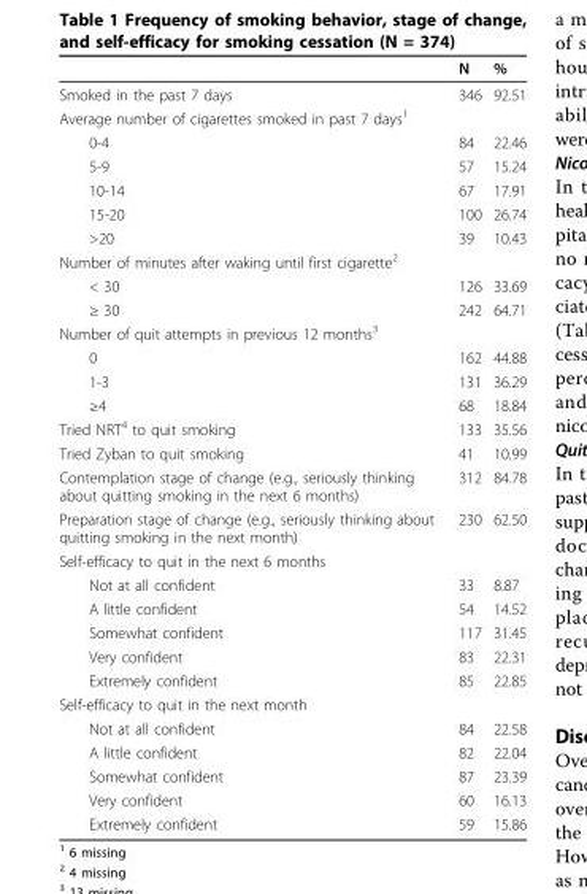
<table><thead><tr><td></td><td>N</td><td>%</td></tr></thead><tbody><tr><td>Smoked in the past 7 days</td><td>346</td><td>92.51</td></tr><tr><td colspan="3">Average number of cigarettes smoked in past 7 days<sup>1</sup></td></tr><tr><td>0-4</td><td>84</td><td>22.46</td></tr><tr><td>5-9</td><td>57</td><td>15.24</td></tr><tr><td>10-14</td><td>67</td><td>17.91</td></tr><tr><td>15-20</td><td>100</td><td>26.74</td></tr><tr><td>&gt;20</td><td>39</td><td>10.43</td></tr><tr><td colspan="3">Number of minutes after waking until first cigarette<sup>2</sup></td></tr><tr><td>&lt; 30</td><td>126</td><td>33.69</td></tr><tr><td>≥ 30</td><td>242</td><td>64.71</td></tr><tr><td colspan="3">Number of quit attempts in previous 12 months<sup>3</sup></td></tr><tr><td>0</td><td>162</td><td>44.88</td></tr><tr><td>1-3</td><td>131</td><td>36.29</td></tr><tr><td>≥4</td><td>68</td><td>18.84</td></tr><tr><td>Tried NRT<sup>4</sup> to quit smoking</td><td>133</td><td>35.56</td></tr><tr><td>Tried Zyban to quit smoking</td><td>41</td><td>10.99</td></tr><tr><td>Contemplation stage of change (e.g., seriously thinking about quitting smoking in the next 6 months)</td><td>312</td><td>84.78</td></tr><tr><td>Preparation stage of change (e.g., seriously thinking about quitting smoking in the next month)</td><td>230</td><td>62.50</td></tr><tr><td colspan="3">Self-efficacy to quit in the next 6 months</td></tr><tr><td>Not at all confident</td><td>33</td><td>8.87</td></tr><tr><td>A little confident</td><td>54</td><td>14.52</td></tr><tr><td>Somewhat confident</td><td>117</td><td>31.45</td></tr><tr><td>Very confident</td><td>83</td><td>22.31</td></tr><tr><td>Extremely confident</td><td>85</td><td>22.85</td></tr><tr><td colspan="3">Self-efficacy to quit in the next month</td></tr><tr><td>Not at all confident</td><td>84</td><td>22.58</td></tr><tr><td>A little confident</td><td>82</td><td>22.04</td></tr><tr><td>Somewhat confident</td><td>87</td><td>23.39</td></tr><tr><td>Very confident</td><td>60</td><td>16.13</td></tr><tr><td>Extremely confident</td><td>59</td><td>15.86</td></tr></tbody></table>